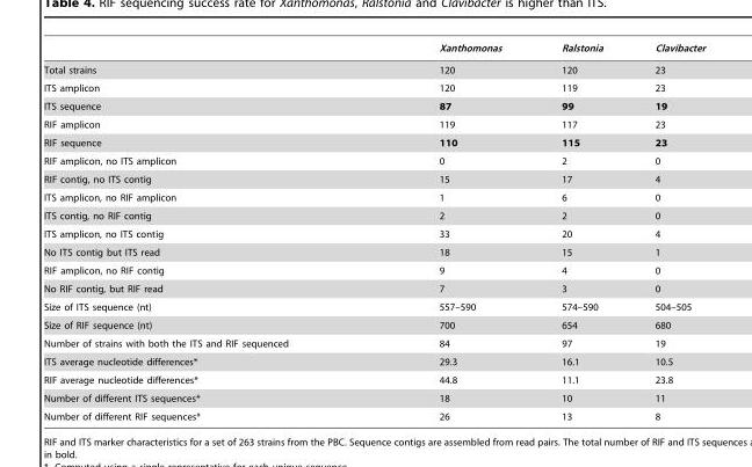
<table><thead><tr><td></td><td>Xanthomonas</td><td>Ralstonia</td><td>Clavibacter</td></tr></thead><tbody><tr><td>Total strains</td><td>120</td><td>120</td><td>23</td></tr><tr><td>ITS amplicon</td><td>120</td><td>119</td><td>23</td></tr><tr><td>ITS sequence</td><td>87</td><td>99</td><td>19</td></tr><tr><td>RIF amplicon</td><td>119</td><td>117</td><td>23</td></tr><tr><td>RIF sequence</td><td>110</td><td>115</td><td>23</td></tr><tr><td>RIF amplicon, no ITS amplicon</td><td>0</td><td>2</td><td>0</td></tr><tr><td>RIF contig, no ITS contig</td><td>15</td><td>17</td><td>4</td></tr><tr><td>ITS amplicon, no RIF amplicon</td><td>1</td><td>6</td><td>0</td></tr><tr><td>ITS contig, no RIF contig</td><td>2</td><td>2</td><td>0</td></tr><tr><td>ITS amplicon, no ITS contig</td><td>33</td><td>20</td><td>4</td></tr><tr><td>No ITS contig but ITS read</td><td>18</td><td>15</td><td>1</td></tr><tr><td>RIF amplicon, no RIF contig</td><td>9</td><td>4</td><td>0</td></tr><tr><td>No RIF contig, but RIF read</td><td>7</td><td>3</td><td>0</td></tr><tr><td>Size of ITS sequence (nt)</td><td>557–590</td><td>574–590</td><td>504–505</td></tr><tr><td>Size of RIF sequence (nt)</td><td>700</td><td>654</td><td>680</td></tr><tr><td>Number of strains with both the ITS and RIF sequenced</td><td>84</td><td>97</td><td>19</td></tr><tr><td>ITS average nucleotide differences*</td><td>29.3</td><td>16.1</td><td>10.5</td></tr><tr><td>RIF average nucleotide differences*</td><td>44.8</td><td>11.1</td><td>23.8</td></tr><tr><td>Number of different ITS sequences*</td><td>18</td><td>10</td><td>11</td></tr><tr><td>Number of different RIF sequences*</td><td>26</td><td>13</td><td>8</td></tr></tbody></table>